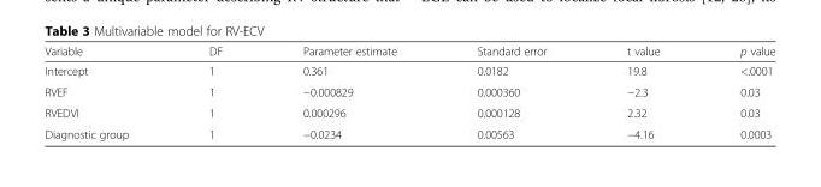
<table><thead><tr><td>Variable</td><td>DF</td><td>Parameter estimate</td><td>Standard error</td><td>t value</td><td>p value</td></tr></thead><tbody><tr><td>Intercept</td><td>1</td><td>0.361</td><td>0.0182</td><td>19.8</td><td>&lt;.0001</td></tr><tr><td>RVEF</td><td>1</td><td>−0.000829</td><td>0.000360</td><td>−2.3</td><td>0.03</td></tr><tr><td>RVEDVI</td><td>1</td><td>0.000296</td><td>0.000128</td><td>2.32</td><td>0.03</td></tr><tr><td>Diagnostic group</td><td>1</td><td>−0.0234</td><td>0.00563</td><td>−4.16</td><td>0.0003</td></tr></tbody></table>